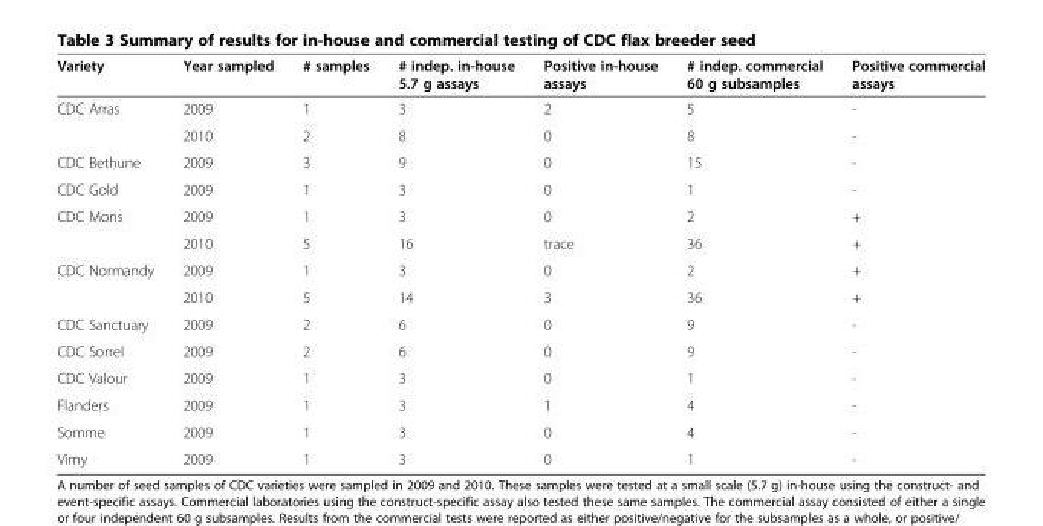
<table><thead><tr><td>Variety</td><td>Year sampled</td><td># samples</td><td># indep. in-house 5.7 g assays</td><td>Positive in-house assays</td><td># indep. commercial 60 g subsamples</td><td>Positive commercial assays</td></tr></thead><tbody><tr><td rowspan="2">CDC Arras</td><td>2009</td><td>1</td><td>3</td><td>2</td><td>5</td><td>-</td></tr><tr><td>2010</td><td>2</td><td>8</td><td>0</td><td>8</td><td>-</td></tr><tr><td>CDC Bethune</td><td>2009</td><td>3</td><td>9</td><td>0</td><td>15</td><td>-</td></tr><tr><td>CDC Gold</td><td>2009</td><td>1</td><td>3</td><td>0</td><td>1</td><td>-</td></tr><tr><td rowspan="2">CDC Mons</td><td>2009</td><td>1</td><td>3</td><td>0</td><td>2</td><td>+</td></tr><tr><td>2010</td><td>5</td><td>16</td><td>trace</td><td>36</td><td>+</td></tr><tr><td rowspan="2">CDC Normandy</td><td>2009</td><td>1</td><td>3</td><td>0</td><td>2</td><td>+</td></tr><tr><td>2010</td><td>5</td><td>14</td><td>3</td><td>36</td><td>+</td></tr><tr><td>CDC Sanctuary</td><td>2009</td><td>2</td><td>6</td><td>0</td><td>9</td><td>-</td></tr><tr><td>CDC Sorrel</td><td>2009</td><td>2</td><td>6</td><td>0</td><td>9</td><td>-</td></tr><tr><td>CDC Valour</td><td>2009</td><td>1</td><td>3</td><td>0</td><td>1</td><td>-</td></tr><tr><td>Flanders</td><td>2009</td><td>1</td><td>3</td><td>1</td><td>4</td><td>-</td></tr><tr><td>Somme</td><td>2009</td><td>1</td><td>3</td><td>0</td><td>4</td><td>-</td></tr><tr><td>Vimy</td><td>2009</td><td>1</td><td>3</td><td>0</td><td>1</td><td>-</td></tr></tbody></table>